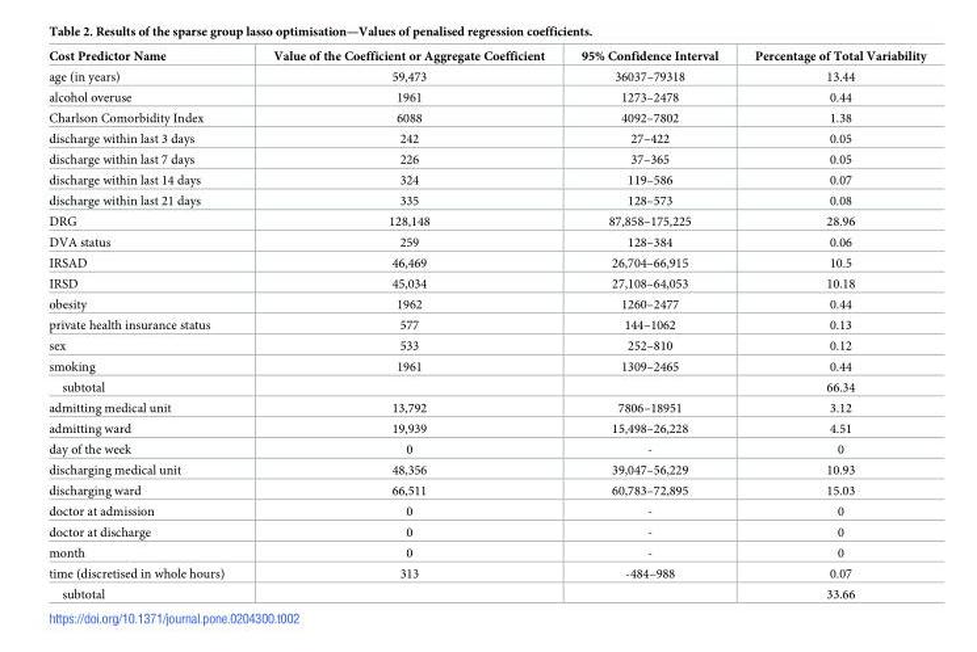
<table><thead><tr><td>Cost Predictor Name</td><td>Value of the Coefficient or Aggregate Coefficient</td><td>95% Confidence Interval</td><td>Percentage of Total Variability</td></tr></thead><tbody><tr><td>age (in years)</td><td>59,473</td><td>36037–79318</td><td>13.44</td></tr><tr><td>alcohol overuse</td><td>1961</td><td>1273–2478</td><td>0.44</td></tr><tr><td>Charlson Comorbidity Index</td><td>6088</td><td>4092–7802</td><td>1.38</td></tr><tr><td>discharge within last 3 days</td><td>242</td><td>27–422</td><td>0.05</td></tr><tr><td>discharge within last 7 days</td><td>226</td><td>37–365</td><td>0.05</td></tr><tr><td>discharge within last 14 days</td><td>324</td><td>119–586</td><td>0.07</td></tr><tr><td>discharge within last 21 days</td><td>335</td><td>128–573</td><td>0.08</td></tr><tr><td>DRG</td><td>128,148</td><td>87,858–175,225</td><td>28.96</td></tr><tr><td>DVA status</td><td>259</td><td>128–384</td><td>0.06</td></tr><tr><td>IRSAD</td><td>46,469</td><td>26,704–66,915</td><td>10.5</td></tr><tr><td>IRSD</td><td>45,034</td><td>27,108–64,053</td><td>10.18</td></tr><tr><td>obesity</td><td>1962</td><td>1260–2477</td><td>0.44</td></tr><tr><td>private health insurance status</td><td>577</td><td>144–1062</td><td>0.13</td></tr><tr><td>sex</td><td>533</td><td>252–810</td><td>0.12</td></tr><tr><td>smoking</td><td>1961</td><td>1309–2465</td><td>0.44</td></tr><tr><td>subtotal</td><td></td><td></td><td>66.34</td></tr><tr><td>admitting medical unit</td><td>13,792</td><td>7806–18951</td><td>3.12</td></tr><tr><td>admitting ward</td><td>19,939</td><td>15,498–26,228</td><td>4.51</td></tr><tr><td>day of the week</td><td>0</td><td>-</td><td>0</td></tr><tr><td>discharging medical unit</td><td>48,356</td><td>39,047–56,229</td><td>10.93</td></tr><tr><td>discharging ward</td><td>66,511</td><td>60,783–72,895</td><td>15.03</td></tr><tr><td>doctor at admission</td><td>0</td><td>-</td><td>0</td></tr><tr><td>doctor at discharge</td><td>0</td><td>-</td><td>0</td></tr><tr><td>month</td><td>0</td><td>-</td><td>0</td></tr><tr><td>time (discretised in whole hours)</td><td>313</td><td>-484–988</td><td>0.07</td></tr><tr><td>subtotal</td><td></td><td></td><td>33.66</td></tr></tbody></table>